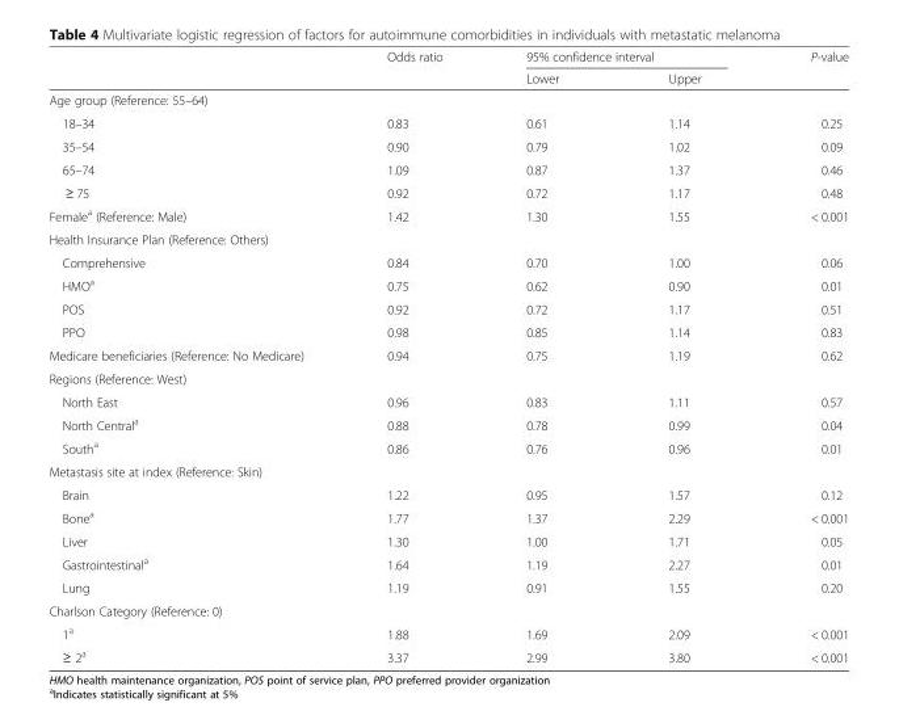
<table><thead><tr><td rowspan="2"></td><td rowspan="2">Odds ratio</td><td colspan="2">95% confidence interval</td><td rowspan="2">P-value</td></tr><tr><td>Lower</td><td>Upper</td></tr></thead><tbody><tr><td colspan="5">Age group (Reference: 55–64)</td></tr><tr><td>18–34</td><td>0.83</td><td>0.61</td><td>1.14</td><td>0.25</td></tr><tr><td>35–54</td><td>0.90</td><td>0.79</td><td>1.02</td><td>0.09</td></tr><tr><td>65–74</td><td>1.09</td><td>0.87</td><td>1.37</td><td>0.46</td></tr><tr><td>≥ 75</td><td>0.92</td><td>0.72</td><td>1.17</td><td>0.48</td></tr><tr><td>Female<sup>a</sup> (Reference: Male)</td><td>1.42</td><td>1.30</td><td>1.55</td><td>&lt; 0.001</td></tr><tr><td colspan="5">Health Insurance Plan (Reference: Others)</td></tr><tr><td>Comprehensive</td><td>0.84</td><td>0.70</td><td>1.00</td><td>0.06</td></tr><tr><td>HMO<sup>a</sup></td><td>0.75</td><td>0.62</td><td>0.90</td><td>0.01</td></tr><tr><td>POS</td><td>0.92</td><td>0.72</td><td>1.17</td><td>0.51</td></tr><tr><td>PPO</td><td>0.98</td><td>0.85</td><td>1.14</td><td>0.83</td></tr><tr><td>Medicare beneficiaries (Reference: No Medicare)</td><td>0.94</td><td>0.75</td><td>1.19</td><td>0.62</td></tr><tr><td colspan="5">Regions (Reference: West)</td></tr><tr><td>North East</td><td>0.96</td><td>0.83</td><td>1.11</td><td>0.57</td></tr><tr><td>North Central<sup>a</sup></td><td>0.88</td><td>0.78</td><td>0.99</td><td>0.04</td></tr><tr><td>South<sup>a</sup></td><td>0.86</td><td>0.76</td><td>0.96</td><td>0.01</td></tr><tr><td colspan="5">Metastasis site at index (Reference: Skin)</td></tr><tr><td>Brain</td><td>1.22</td><td>0.95</td><td>1.57</td><td>0.12</td></tr><tr><td>Bone<sup>a</sup></td><td>1.77</td><td>1.37</td><td>2.29</td><td>&lt; 0.001</td></tr><tr><td>Liver</td><td>1.30</td><td>1.00</td><td>1.71</td><td>0.05</td></tr><tr><td>Gastrointestinal<sup>a</sup></td><td>1.64</td><td>1.19</td><td>2.27</td><td>0.01</td></tr><tr><td>Lung</td><td>1.19</td><td>0.91</td><td>1.55</td><td>0.20</td></tr><tr><td colspan="5">Charlson Category (Reference: 0)</td></tr><tr><td>1<sup>a</sup></td><td>1.88</td><td>1.69</td><td>2.09</td><td>&lt; 0.001</td></tr><tr><td>≥ 2<sup>a</sup></td><td>3.37</td><td>2.99</td><td>3.80</td><td>&lt; 0.001</td></tr></tbody></table>